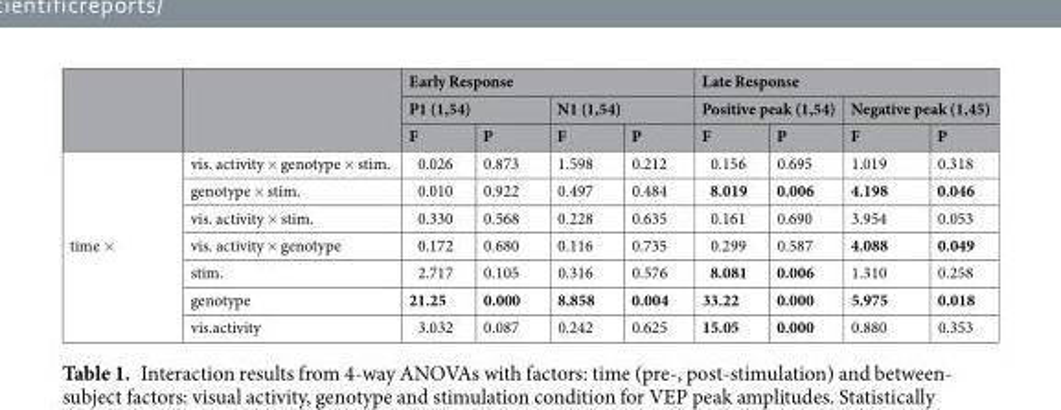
<table><thead><tr><td rowspan="3"></td><td rowspan="3"></td><td colspan="4">Early Response</td><td colspan="4">Late Response</td></tr><tr><td colspan="2">P1 (1,54)</td><td colspan="2">N1 (1,54)</td><td colspan="2">Positive peak (1,54)</td><td colspan="2">Negative peak (1,45)</td></tr><tr><td>F</td><td>P</td><td>F</td><td>P</td><td>F</td><td>P</td><td>F</td><td>P</td></tr></thead><tbody><tr><td rowspan="7">time ×</td><td>vis. activity × genotype × stim.</td><td>0.026</td><td>0.873</td><td>1.598</td><td>0.212</td><td>0.156</td><td>0.695</td><td>1.019</td><td>0.318</td></tr><tr><td>genotype × stim.</td><td>0.010</td><td>0.922</td><td>0.497</td><td>0.484</td><td>8.019</td><td>0.006</td><td>4.198</td><td>0.046</td></tr><tr><td>vis. activity × stim.</td><td>0.330</td><td>0.568</td><td>0.228</td><td>0.635</td><td>0.161</td><td>0.690</td><td>3.954</td><td>0.053</td></tr><tr><td>vis. activity × genotype</td><td>0.172</td><td>0.680</td><td>0.116</td><td>0.735</td><td>0.299</td><td>0.587</td><td>4.088</td><td>0.049</td></tr><tr><td>stim.</td><td>2.717</td><td>0.105</td><td>0.316</td><td>0.576</td><td>8.081</td><td>0.006</td><td>1.310</td><td>0.258</td></tr><tr><td>genotype</td><td>21.25</td><td>0.000</td><td>8.858</td><td>0.004</td><td>33.22</td><td>0.000</td><td>5.975</td><td>0.018</td></tr><tr><td>vis.activity</td><td>3.032</td><td>0.087</td><td>0.242</td><td>0.625</td><td>15.05</td><td>0.000</td><td>0.880</td><td>0.353</td></tr></tbody></table>